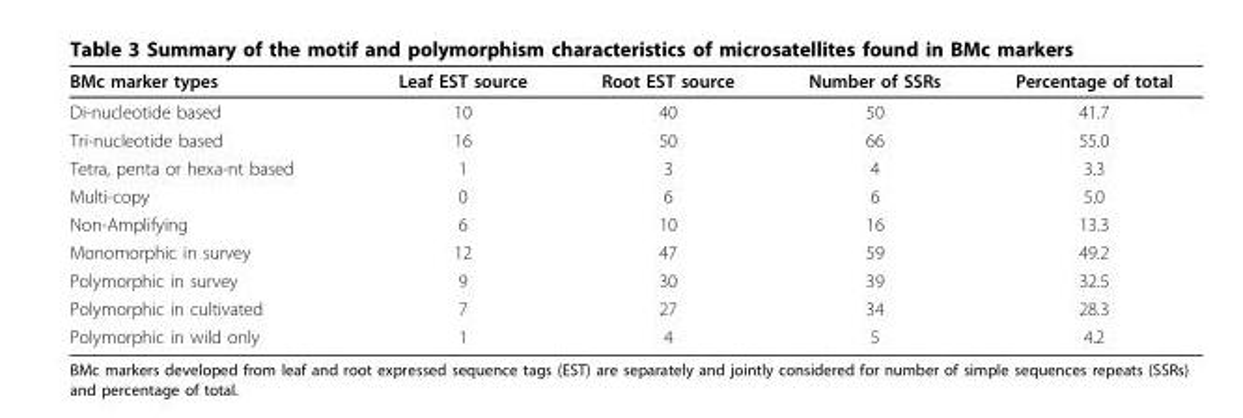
<table><thead><tr><td>BMc marker types</td><td>Leaf EST source</td><td>Root EST source</td><td>Number of SSRs</td><td>Percentage of total</td></tr></thead><tbody><tr><td>Di-nucleotide based</td><td>10</td><td>40</td><td>50</td><td>41.7</td></tr><tr><td>Tri-nucleotide based</td><td>16</td><td>50</td><td>66</td><td>55.0</td></tr><tr><td>Tetra, penta or hexa-nt based</td><td>1</td><td>3</td><td>4</td><td>3.3</td></tr><tr><td>Multi-copy</td><td>0</td><td>6</td><td>6</td><td>5.0</td></tr><tr><td>Non-Amplifying</td><td>6</td><td>10</td><td>16</td><td>13.3</td></tr><tr><td>Monomorphic in survey</td><td>12</td><td>47</td><td>59</td><td>49.2</td></tr><tr><td>Polymorphic in survey</td><td>9</td><td>30</td><td>39</td><td>32.5</td></tr><tr><td>Polymorphic in cultivated</td><td>7</td><td>27</td><td>34</td><td>28.3</td></tr><tr><td>Polymorphic in wild only</td><td>1</td><td>4</td><td>5</td><td>4.2</td></tr></tbody></table>